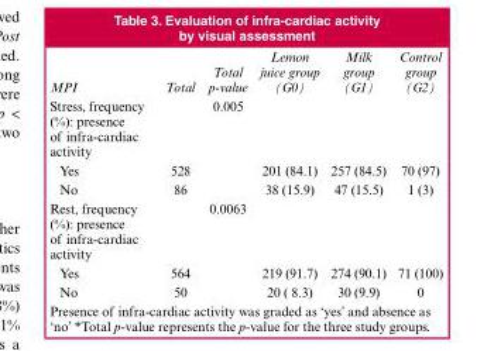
<table><thead><tr><td>MPI</td><td>Total</td><td>Total p-value</td><td>Lemon juice group (G0)</td><td>Milk group (G1)</td><td>Control group (G2)</td></tr></thead><tbody><tr><td>Stress, frequency (%): presence of infra-cardiac activity</td><td></td><td>0.005</td><td></td><td></td><td></td></tr><tr><td>Yes</td><td>528</td><td></td><td>201 (84.1)</td><td>257 (84.5)</td><td>70 (97)</td></tr><tr><td>No</td><td>86</td><td></td><td>38 (15.9)</td><td>47 (15.5)</td><td>1 (3)</td></tr><tr><td>Rest, frequency (%): presence of infra-cardiac activity</td><td></td><td>0.0063</td><td></td><td></td><td></td></tr><tr><td>Yes</td><td>564</td><td></td><td>219 (91.7)</td><td>274 (90.1)</td><td>71 (100)</td></tr><tr><td>No</td><td>50</td><td></td><td>20 ( 8.3)</td><td>30 (9.9)</td><td>0</td></tr></tbody></table>